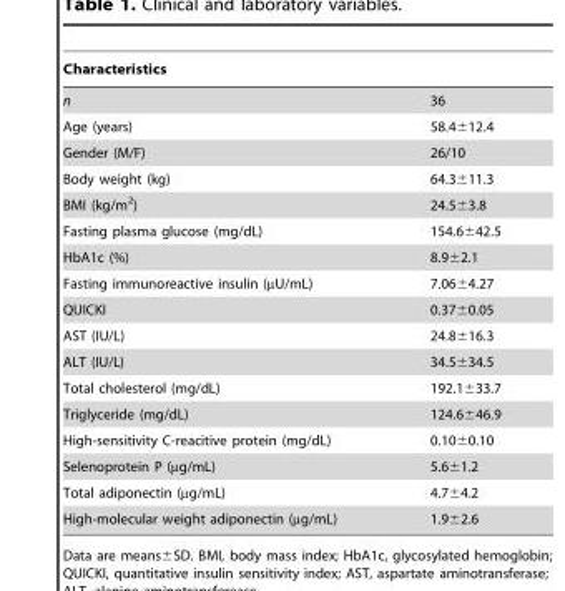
<table><thead><tr><td>Characteristics</td><td></td></tr></thead><tbody><tr><td>n</td><td>36</td></tr><tr><td>Age (years)</td><td>58.4±12.4</td></tr><tr><td>Gender (M/F)</td><td>26/10</td></tr><tr><td>Body weight (kg)</td><td>64.3±11.3</td></tr><tr><td>BMI (kg/m<sup>2</sup>)</td><td>24.5±3.8</td></tr><tr><td>Fasting plasma glucose (mg/dL)</td><td>154.6±42.5</td></tr><tr><td>HbA1c (%)</td><td>8.9±2.1</td></tr><tr><td>Fasting immunoreactive insulin (µU/mL)</td><td>7.06±4.27</td></tr><tr><td>QUICKI</td><td>0.37±0.05</td></tr><tr><td>AST (IU/L)</td><td>24.8±16.3</td></tr><tr><td>ALT (IU/L)</td><td>34.5±34.5</td></tr><tr><td>Total cholesterol (mg/dL)</td><td>192.1±33.7</td></tr><tr><td>Triglyceride (mg/dL)</td><td>124.6±46.9</td></tr><tr><td>High-sensitivity C-reacitive protein (mg/dL)</td><td>0.10±0.10</td></tr><tr><td>Selenoprotein P (µg/mL)</td><td>5.6±1.2</td></tr><tr><td>Total adiponectin (µg/mL)</td><td>4.7±4.2</td></tr><tr><td>High-molecular weight adiponectin (µg/mL)</td><td>1.9±2.6</td></tr></tbody></table>